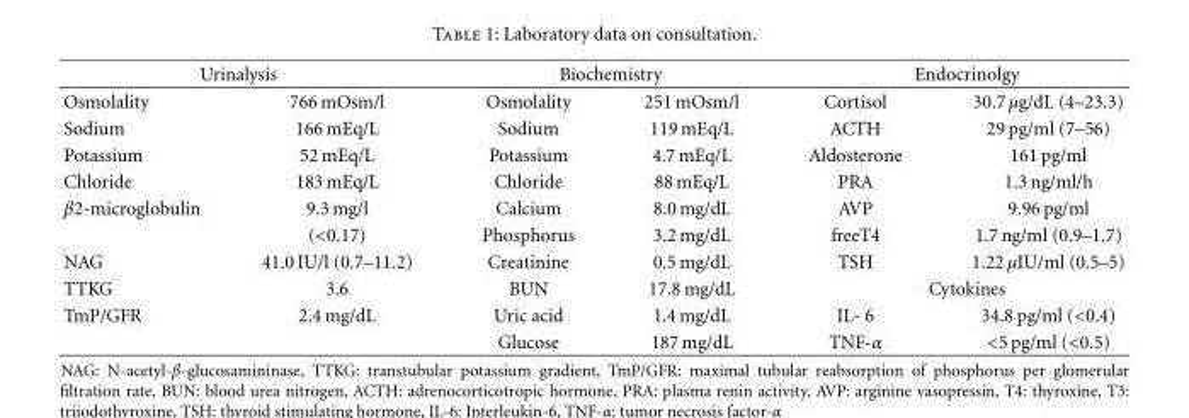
<table><thead><tr><td colspan="2">Urinalysis</td><td colspan="2">Biochemistry</td><td colspan="2">Endocrinolgy</td></tr><tr><td>Osmolality</td><td>766 mOsm/l</td><td>Osmolality</td><td>251 mOsm/l</td><td>Cortisol</td><td>30.7 μg/dL (4–23.3)</td></tr></thead><tbody><tr><td>Sodium</td><td>166 mEq/L</td><td>Sodium</td><td>119 mEq/L</td><td>ACTH</td><td>29 pg/ml (7–56)</td></tr><tr><td>Potassium</td><td>52 mEq/L</td><td>Potassium</td><td>4.7 mEq/L</td><td>Aldosterone</td><td>161 pg/ml</td></tr><tr><td>Chloride</td><td>183 mEq/L</td><td>Chloride</td><td>88 mEq/L</td><td>PRA</td><td>1.3 ng/ml/h</td></tr><tr><td rowspan="2">β2-microglobulin</td><td>9.3 mg/l</td><td>Calcium</td><td>8.0 mg/dL</td><td>AVP</td><td>9.96 pg/ml</td></tr><tr><td>(&lt;0.17)</td><td>Phosphorus</td><td>3.2 mg/dL</td><td>freeT4</td><td>1.7 ng/ml (0.9–1.7)</td></tr><tr><td>NAG</td><td>41.0 IU/l (0.7–11.2)</td><td>Creatinine</td><td>0.5 mg/dL</td><td>TSH</td><td>1.22 μIU/ml (0.5–5)</td></tr><tr><td>TTKG</td><td>3.6</td><td>BUN</td><td>17.8 mg/dL</td><td colspan="2">Cytokines</td></tr><tr><td rowspan="2">TmP/GFR</td><td>2.4 mg/dL</td><td>Uric acid</td><td>1.4 mg/dL</td><td>IL- 6</td><td>34.8 pg/ml (&lt;0.4)</td></tr><tr><td></td><td>Glucose</td><td>187 mg/dL</td><td>TNF-α</td><td>&lt;5 pg/ml (&lt;0.5)</td></tr></tbody></table>